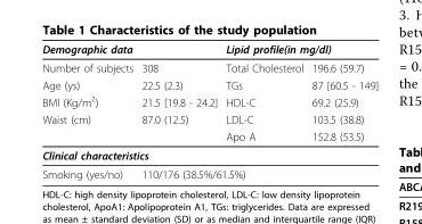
<table><thead><tr><td colspan="2">Demographic data</td><td colspan="2">Lipid profile(in mg/dl)</td></tr><tr><td>Number of subjects</td><td>308</td><td>Total Cholesterol</td><td>196.6 (59.7)</td></tr></thead><tbody><tr><td>Age (ys)</td><td>22.5 (2.3)</td><td>TGs</td><td>87 [60.5 - 149]</td></tr><tr><td>BMI (Kg/m<sup>2</sup>)</td><td>21.5 [19.8 - 24.2]</td><td>HDL-C</td><td>69.2 (25.9)</td></tr><tr><td rowspan="2">Waist (cm)</td><td>87.0 (12.5)</td><td>LDL-C</td><td>103.5 (38.8)</td></tr><tr><td></td><td>Apo A</td><td>152.8 (53.5)</td></tr><tr><td colspan="4">Clinical characteristics</td></tr><tr><td>Smoking (yes/no)</td><td colspan="3">110/176 (38.5%/61.5%)</td></tr></tbody></table>